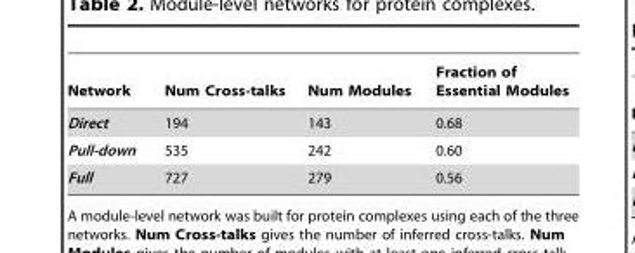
<table><thead><tr><td>Network</td><td>Num Cross-talks</td><td>Num Modules</td><td>Fraction of Essential Modules</td></tr></thead><tbody><tr><td>Direct</td><td>194</td><td>143</td><td>0.68</td></tr><tr><td>Pull-down</td><td>535</td><td>242</td><td>0.60</td></tr><tr><td>Full</td><td>727</td><td>279</td><td>0.56</td></tr></tbody></table>